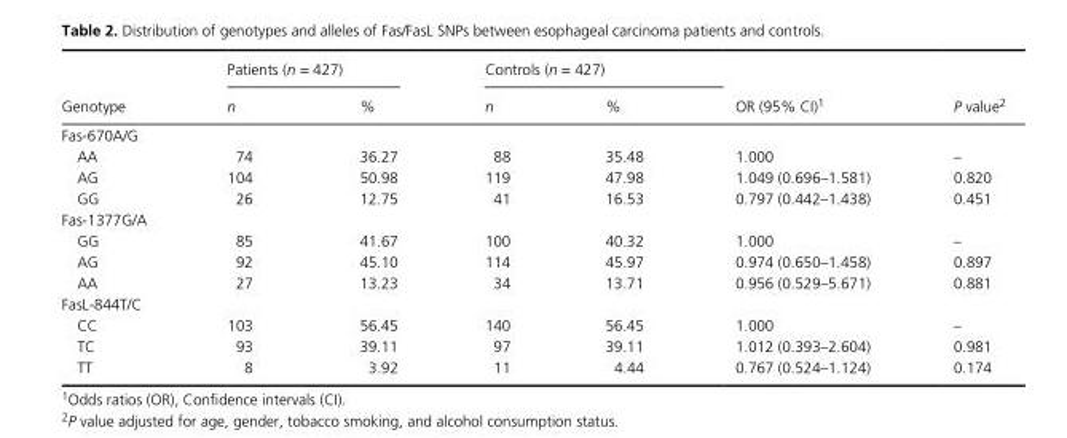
<table><thead><tr><td rowspan="2">Genotype</td><td colspan="2">Patients (n = 427)</td><td colspan="2">Controls (n = 427)</td><td rowspan="2">OR (95% CI)1</td><td rowspan="2">P value2</td></tr><tr><td>n</td><td>%</td><td>n</td><td>%</td></tr></thead><tbody><tr><td colspan="7">Fas- 670A/G</td></tr><tr><td>AA</td><td>74</td><td>36.27</td><td>88</td><td>35.48</td><td>1.000</td><td>–</td></tr><tr><td>AG</td><td>104</td><td>50.98</td><td>119</td><td>47.98</td><td>1.049 (0.696–1.581)</td><td>0.820</td></tr><tr><td>GG</td><td>26</td><td>12.75</td><td>41</td><td>16.53</td><td>0.797 (0.442–1.438)</td><td>0.451</td></tr><tr><td colspan="7">Fas- 1377G/A</td></tr><tr><td>GG</td><td>85</td><td>41.67</td><td>100</td><td>40.32</td><td>1.000</td><td>–</td></tr><tr><td>AG</td><td>92</td><td>45.10</td><td>114</td><td>45.97</td><td>0.974 (0.650–1.458)</td><td>0.897</td></tr><tr><td>AA</td><td>27</td><td>13.23</td><td>34</td><td>13.71</td><td>0.956 (0.529–5.671)</td><td>0.881</td></tr><tr><td colspan="7">FasL- 844T/C</td></tr><tr><td>CC</td><td>103</td><td>56.45</td><td>140</td><td>56.45</td><td>1.000</td><td>–</td></tr><tr><td>TC</td><td>93</td><td>39.11</td><td>97</td><td>39.11</td><td>1.012 (0.393–2.604)</td><td>0.981</td></tr><tr><td>TT</td><td>8</td><td>3.92</td><td>11</td><td>4.44</td><td>0.767 (0.524–1.124)</td><td>0.174</td></tr></tbody></table>